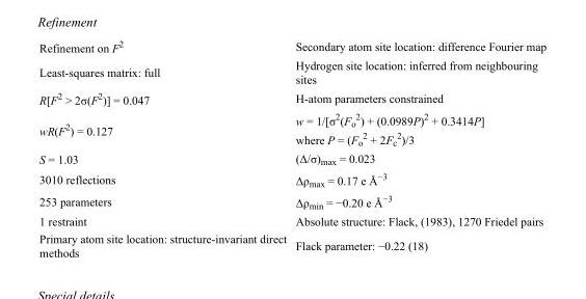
<table><tbody><tr><td>Refinement on F<sup>2</sup></td><td>Secondary atom site location: difference Fourier map</td></tr><tr><td>Least-squares matrix: full</td><td>Hydrogen site location: inferred from neighbouring sites</td></tr><tr><td>R[F<sup>2</sup> &gt; 2σ(F<sup>2</sup>)] = 0.047</td><td>H-atom parameters constrained</td></tr><tr><td>wR(F<sup>2</sup>) = 0.127</td><td>w = 1/[σ<sup>2</sup>(F<sub>o</sub> <sup>2</sup>) + (0.0989P)<sup>2</sup> + 0.3414P] where P = (F<sub>o</sub> <sup>2</sup> + 2F<sub>c</sub> <sup>2</sup>)/3</td></tr><tr><td>S = 1.03</td><td>(Δ/σ)<sub>max</sub> = 0.023</td></tr><tr><td>3010 reflections</td><td>Δρ<sub>max</sub> = 0.17 e Å<sup>−3</sup></td></tr><tr><td>253 parameters</td><td>Δρ<sub>min</sub> = −0.20 e Å<sup>−3</sup></td></tr><tr><td>1 restraint</td><td>Absolute structure: Flack, (1983), 1270 Friedel pairs</td></tr><tr><td>Primary atom site location: structure-invariant direct methods</td><td>Flack parameter: −0.22 (18)</td></tr></tbody></table>